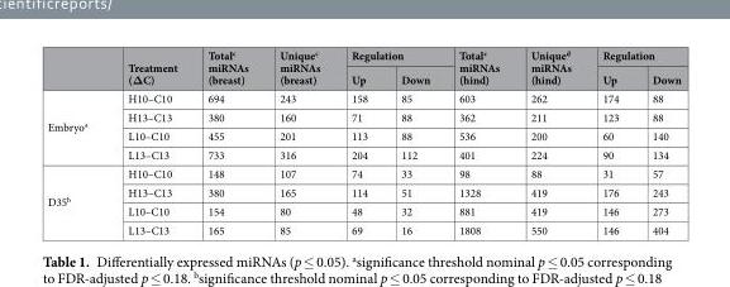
<table><thead><tr><td rowspan="2"></td><td rowspan="2">Treatment (ΔC)</td><td rowspan="2">Total<sup>c</sup> miRNAs (breast)</td><td rowspan="2">Unique<sup>c</sup> miRNAs (breast)</td><td colspan="2">Regulation</td><td rowspan="2">Total<sup>c</sup> miRNAs (hind)</td><td rowspan="2">Unique<sup>d</sup> miRNAs (hind)</td><td colspan="2">Regulation</td></tr><tr><td>Up</td><td>Down</td><td>Up</td><td>Down</td></tr></thead><tbody><tr><td rowspan="4">Embryo<sup>a</sup></td><td>H10–C10</td><td>694</td><td>243</td><td>158</td><td>85</td><td>603</td><td>262</td><td>174</td><td>88</td></tr><tr><td>H13–C13</td><td>380</td><td>160</td><td>71</td><td>88</td><td>362</td><td>211</td><td>123</td><td>88</td></tr><tr><td>L10–C10</td><td>455</td><td>201</td><td>113</td><td>88</td><td>536</td><td>200</td><td>60</td><td>140</td></tr><tr><td>L13–C13</td><td>733</td><td>316</td><td>204</td><td>112</td><td>401</td><td>224</td><td>90</td><td>134</td></tr><tr><td rowspan="4">D35<sup>b</sup></td><td>H10–C10</td><td>148</td><td>107</td><td>74</td><td>33</td><td>98</td><td>88</td><td>31</td><td>57</td></tr><tr><td>H13–C13</td><td>380</td><td>165</td><td>114</td><td>51</td><td>1328</td><td>419</td><td>176</td><td>243</td></tr><tr><td>L10–C10</td><td>154</td><td>80</td><td>48</td><td>32</td><td>881</td><td>419</td><td>146</td><td>273</td></tr><tr><td>L13–C13</td><td>165</td><td>85</td><td>69</td><td>16</td><td>1808</td><td>550</td><td>146</td><td>404</td></tr></tbody></table>